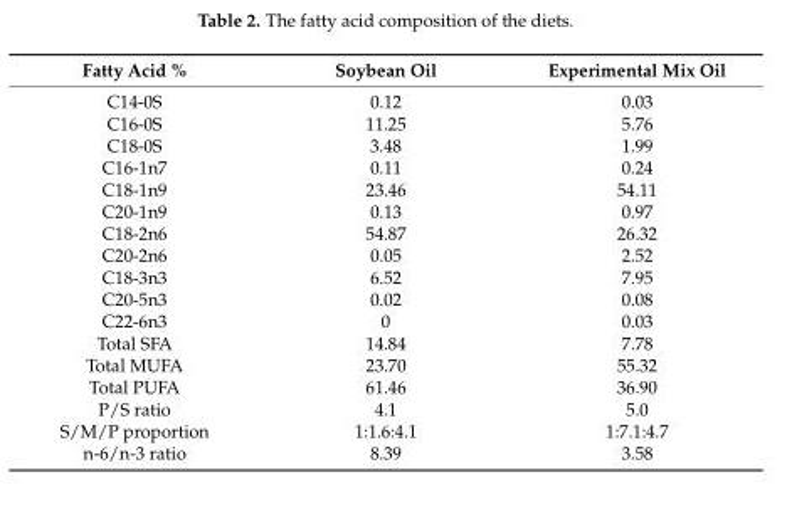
<table><thead><tr><td>Fatty Acid %</td><td>Soybean Oil</td><td>Experimental Mix Oil</td></tr></thead><tbody><tr><td>C14-0S</td><td>0.12</td><td>0.03</td></tr><tr><td>C16-0S</td><td>11.25</td><td>5.76</td></tr><tr><td>C18-0S</td><td>3.48</td><td>1.99</td></tr><tr><td>C16-1n7</td><td>0.11</td><td>0.24</td></tr><tr><td>C18-1n9</td><td>23.46</td><td>54.11</td></tr><tr><td>C20-1n9</td><td>0.13</td><td>0.97</td></tr><tr><td>C18-2n6</td><td>54.87</td><td>26.32</td></tr><tr><td>C20-2n6</td><td>0.05</td><td>2.52</td></tr><tr><td>C18-3n3</td><td>6.52</td><td>7.95</td></tr><tr><td>C20-5n3</td><td>0.02</td><td>0.08</td></tr><tr><td>C22-6n3</td><td>0</td><td>0.03</td></tr><tr><td>Total SFA</td><td>14.84</td><td>7.78</td></tr><tr><td>Total MUFA</td><td>23.70</td><td>55.32</td></tr><tr><td>Total PUFA</td><td>61.46</td><td>36.90</td></tr><tr><td>P/S ratio</td><td>4.1</td><td>5.0</td></tr><tr><td>S/M/P proportion</td><td>1:1.6:4.1</td><td>1:7.1:4.7</td></tr><tr><td>n-6/n-3 ratio</td><td>8.39</td><td>3.58</td></tr></tbody></table>